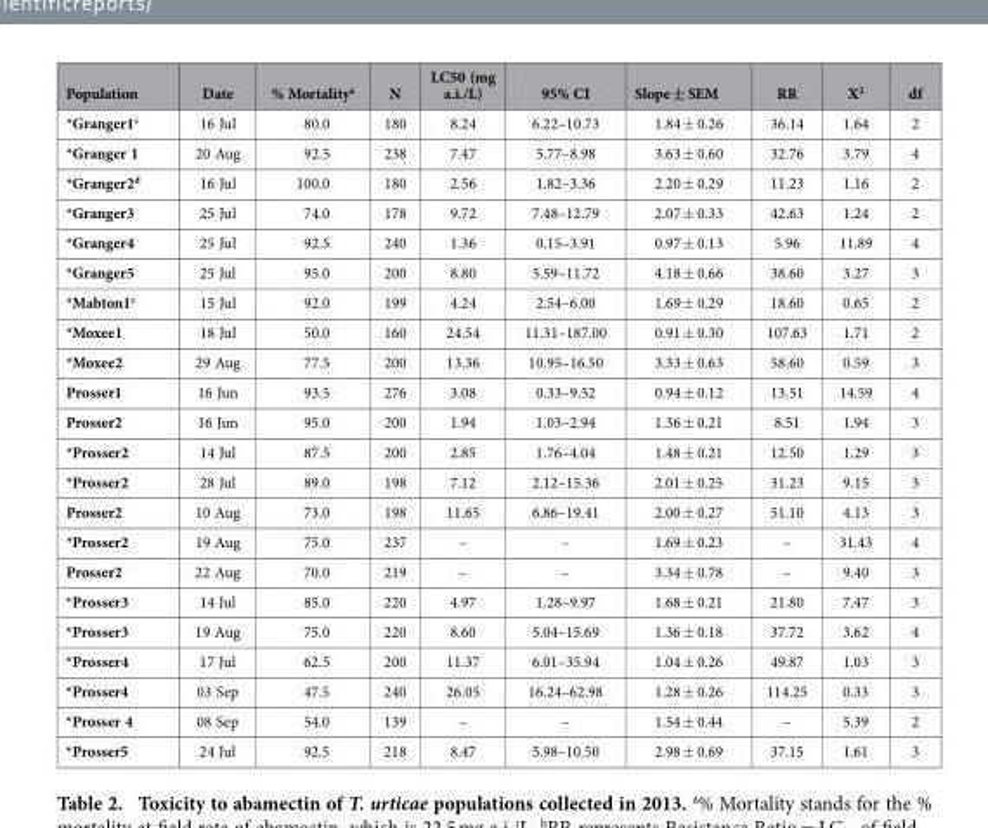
<table><thead><tr><td>Population</td><td>Date</td><td>% Mortality<sup>a</sup></td><td>N</td><td>LC50 (mg a.i./L)</td><td>95% CI</td><td>Slope ± SEM</td><td>RR</td><td>X<sup>2</sup></td><td>df</td></tr></thead><tbody><tr><td>*Granger1<sup>c</sup></td><td>16 Jul</td><td>80.0</td><td>180</td><td>8.24</td><td>6.22–10.73</td><td>1.84 ± 0.26</td><td>36.14</td><td>1.64</td><td>2</td></tr><tr><td>*Granger 1</td><td>20 Aug</td><td>92.5</td><td>238</td><td>7.47</td><td>5.77–8.98</td><td>3.63 ± 0.60</td><td>32.76</td><td>3.79</td><td>4</td></tr><tr><td>*Granger2<sup>d</sup></td><td>16 Jul</td><td>100.0</td><td>180</td><td>2.56</td><td>1.82–3.36</td><td>2.20 ± 0.29</td><td>11.23</td><td>1.16</td><td>2</td></tr><tr><td>*Granger3</td><td>25 Jul</td><td>74.0</td><td>178</td><td>9.72</td><td>7.48–12.79</td><td>2.07 ± 0.33</td><td>42.63</td><td>1.24</td><td>2</td></tr><tr><td>*Granger4</td><td>25 Jul</td><td>92.5</td><td>240</td><td>1.36</td><td>0.15–3.91</td><td>0.97 ± 0.13</td><td>5.96</td><td>11.89</td><td>4</td></tr><tr><td>*Granger5</td><td>25 Jul</td><td>95.0</td><td>200</td><td>8.80</td><td>5.59–11.72</td><td>4.18 ± 0.66</td><td>38.60</td><td>3.27</td><td>3</td></tr><tr><td>*Mabton1<sup>c</sup></td><td>15 Jul</td><td>92.0</td><td>199</td><td>4.24</td><td>2.54–6.00</td><td>1.69 ± 0.29</td><td>18.60</td><td>0.65</td><td>2</td></tr><tr><td>*Moxee1</td><td>18 Jul</td><td>50.0</td><td>160</td><td>24.54</td><td>11.31–187.00</td><td>0.91 ± 0.30</td><td>107.63</td><td>1.71</td><td>2</td></tr><tr><td>*Moxee2</td><td>29 Aug</td><td>77.5</td><td>200</td><td>13.36</td><td>10.95–16.50</td><td>3.33 ± 0.63</td><td>58.60</td><td>0.59</td><td>3</td></tr><tr><td>Prosser1</td><td>16 Jun</td><td>93.5</td><td>276</td><td>3.08</td><td>0.33–9.52</td><td>0.94 ± 0.12</td><td>13.51</td><td>14.59</td><td>4</td></tr><tr><td>Prosser2</td><td>16 Jun</td><td>95.0</td><td>200</td><td>1.94</td><td>1.03–2.94</td><td>1.36 ± 0.21</td><td>8.51</td><td>1.94</td><td>3</td></tr><tr><td>*Prosser2</td><td>14 Jul</td><td>87.5</td><td>200</td><td>2.85</td><td>1.76–4.04</td><td>1.48 ± 0.21</td><td>12.50</td><td>1.29</td><td>3</td></tr><tr><td>*Prosser2</td><td>28 Jul</td><td>89.0</td><td>198</td><td>7.12</td><td>2.12–15.36</td><td>2.01 ± 0.25</td><td>31.23</td><td>9.15</td><td>3</td></tr><tr><td>Prosser2</td><td>10 Aug</td><td>73.0</td><td>198</td><td>11.65</td><td>6.86–19.41</td><td>2.00 ± 0.27</td><td>51.10</td><td>4.13</td><td>3</td></tr><tr><td>*Prosser2</td><td>19 Aug</td><td>75.0</td><td>237</td><td>–</td><td>–</td><td>1.69 ± 0.23</td><td>–</td><td>31.43</td><td>4</td></tr><tr><td>Prosser2</td><td>22 Aug</td><td>70.0</td><td>219</td><td>–</td><td>–</td><td>3.34 ± 0.78</td><td>–</td><td>9.40</td><td>3</td></tr><tr><td>*Prosser3</td><td>14 Jul</td><td>85.0</td><td>220</td><td>4.97</td><td>1.28–9.97</td><td>1.68 ± 0.21</td><td>21.80</td><td>7.47</td><td>3</td></tr><tr><td>*Prosser3</td><td>19 Aug</td><td>75.0</td><td>220</td><td>8.60</td><td>5.04–15.69</td><td>1.36 ± 0.18</td><td>37.72</td><td>3.62</td><td>4</td></tr><tr><td>*Prosser4</td><td>17 Jul</td><td>62.5</td><td>200</td><td>11.37</td><td>6.01–35.94</td><td>1.04 ± 0.26</td><td>49.87</td><td>1.03</td><td>3</td></tr><tr><td>*Prosser4</td><td>03 Sep</td><td>47.5</td><td>240</td><td>26.05</td><td>16.24–62.98</td><td>1.28 ± 0.26</td><td>114.25</td><td>0.33</td><td>3</td></tr><tr><td>*Prosser 4</td><td>08 Sep</td><td>54.0</td><td>139</td><td>–</td><td>–</td><td>1.54 ± 0.44</td><td>–</td><td>5.39</td><td>2</td></tr><tr><td>*Prosser5</td><td>24 Jul</td><td>92.5</td><td>218</td><td>8.47</td><td>5.98–10.50</td><td>2.98 ± 0.69</td><td>37.15</td><td>1.61</td><td>3</td></tr></tbody></table>